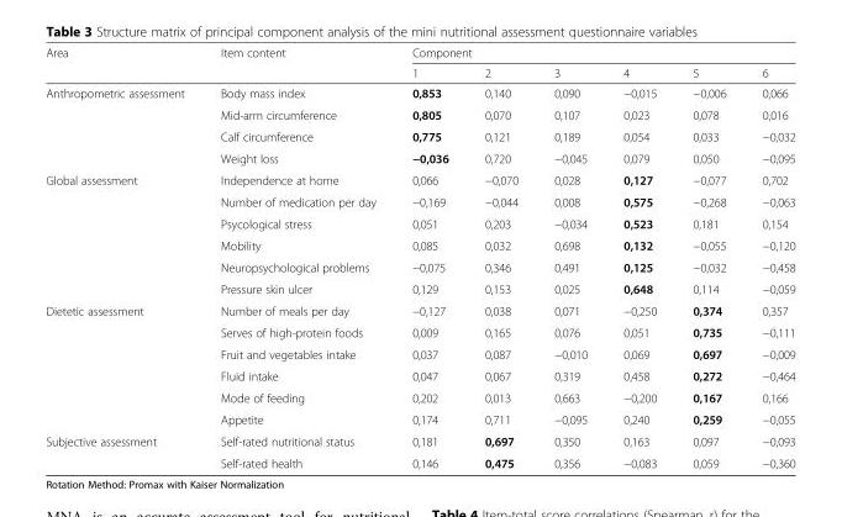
<table><thead><tr><td rowspan="2">Area</td><td rowspan="2">Item content</td><td colspan="6">Component</td></tr><tr><td>1</td><td>2</td><td>3</td><td>4</td><td>5</td><td>6</td></tr></thead><tbody><tr><td rowspan="4">Anthropometric assessment</td><td>Body mass index</td><td>0,853</td><td>0,140</td><td>0,090</td><td>−0,015</td><td>−0,006</td><td>0,066</td></tr><tr><td>Mid-arm circumference</td><td>0,805</td><td>0,070</td><td>0,107</td><td>0,023</td><td>0,078</td><td>0,016</td></tr><tr><td>Calf circumference</td><td>0,775</td><td>0,121</td><td>0,189</td><td>0,054</td><td>0,033</td><td>−0,032</td></tr><tr><td>Weight loss</td><td>−0,036</td><td>0,720</td><td>−0,045</td><td>0,079</td><td>0,050</td><td>−0,095</td></tr><tr><td rowspan="6">Global assessment</td><td>Independence at home</td><td>0,066</td><td>−0,070</td><td>0,028</td><td>0,127</td><td>−0,077</td><td>0,702</td></tr><tr><td>Number of medication per day</td><td>−0,169</td><td>−0,044</td><td>0,008</td><td>0,575</td><td>−0,268</td><td>−0,063</td></tr><tr><td>Psycological stress</td><td>0,051</td><td>0,203</td><td>−0,034</td><td>0,523</td><td>0,181</td><td>0,154</td></tr><tr><td>Mobility</td><td>0,085</td><td>0,032</td><td>0,698</td><td>0,132</td><td>−0,055</td><td>−0,120</td></tr><tr><td>Neuropsychological problems</td><td>−0,075</td><td>0,346</td><td>0,491</td><td>0,125</td><td>−0,032</td><td>−0,458</td></tr><tr><td>Pressure skin ulcer</td><td>0,129</td><td>0,153</td><td>0,025</td><td>0,648</td><td>0,114</td><td>−0,059</td></tr><tr><td rowspan="6">Dietetic assessment</td><td>Number of meals per day</td><td>−0,127</td><td>0,038</td><td>0,071</td><td>−0,250</td><td>0,374</td><td>0,357</td></tr><tr><td>Serves of high-protein foods</td><td>0,009</td><td>0,165</td><td>0,076</td><td>0,051</td><td>0,735</td><td>−0,111</td></tr><tr><td>Fruit and vegetables intake</td><td>0,037</td><td>0,087</td><td>−0,010</td><td>0,069</td><td>0,697</td><td>−0,009</td></tr><tr><td>Fluid intake</td><td>0,047</td><td>0,067</td><td>0,319</td><td>0,458</td><td>0,272</td><td>−0,464</td></tr><tr><td>Mode of feeding</td><td>0,202</td><td>0,013</td><td>0,663</td><td>−0,200</td><td>0,167</td><td>0,166</td></tr><tr><td>Appetite</td><td>0,174</td><td>0,711</td><td>−0,095</td><td>0,240</td><td>0,259</td><td>−0,055</td></tr><tr><td rowspan="2">Subjective assessment</td><td>Self-rated nutritional status</td><td>0,181</td><td>0,697</td><td>0,350</td><td>0,163</td><td>0,097</td><td>−0,093</td></tr><tr><td>Self-rated health</td><td>0,146</td><td>0,475</td><td>0,356</td><td>−0,083</td><td>0,059</td><td>−0,360</td></tr></tbody></table>